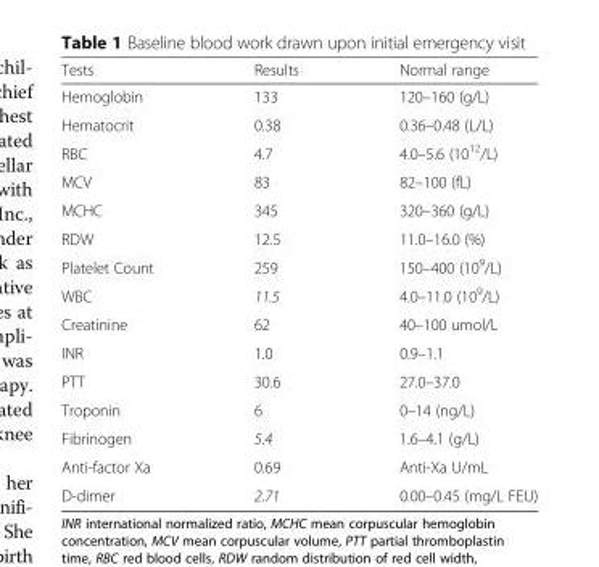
<table><thead><tr><td>Tests</td><td>Results</td><td>Normal range</td></tr></thead><tbody><tr><td>Hemoglobin</td><td>133</td><td>120–160 (g/L)</td></tr><tr><td>Hematocrit</td><td>0.38</td><td>0.36–0.48 (L/L)</td></tr><tr><td>RBC</td><td>4.7</td><td>4.0–5.6 (10<sup>12</sup>/L)</td></tr><tr><td>MCV</td><td>83</td><td>82–100 (fL)</td></tr><tr><td>MCHC</td><td>345</td><td>320–360 (g/L)</td></tr><tr><td>RDW</td><td>12.5</td><td>11.0–16.0 (%)</td></tr><tr><td>Platelet Count</td><td>259</td><td>150–400 (10<sup>9</sup>/L)</td></tr><tr><td>WBC</td><td>11.5</td><td>4.0–11.0 (10<sup>9</sup>/L)</td></tr><tr><td>Creatinine</td><td>62</td><td>40–100 umol/L</td></tr><tr><td>INR</td><td>1.0</td><td>0.9–1.1</td></tr><tr><td>PTT</td><td>30.6</td><td>27.0–37.0</td></tr><tr><td>Troponin</td><td>6</td><td>0–14 (ng/L)</td></tr><tr><td>Fibrinogen</td><td>5.4</td><td>1.6–4.1 (g/L)</td></tr><tr><td>Anti-factor Xa</td><td>0.69</td><td>Anti-Xa U/mL</td></tr><tr><td>D-dimer</td><td>2.71</td><td>0.00–0.45 (mg/L FEU)</td></tr></tbody></table>